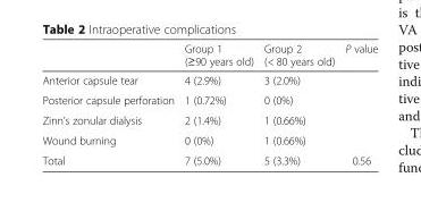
<table><thead><tr><td></td><td>Group 1 (≥90 years old)</td><td>Group 2 (&lt; 80 years old)</td><td>P value</td></tr></thead><tbody><tr><td>Anterior capsule tear</td><td>4 (2.9%)</td><td>3 (2.0%)</td><td></td></tr><tr><td>Posterior capsule perforation</td><td>1 (0.72%)</td><td>0 (0%)</td><td></td></tr><tr><td>Zinn’s zonular dialysis</td><td>2 (1.4%)</td><td>1 (0.66%)</td><td></td></tr><tr><td>Wound burning</td><td>0 (0%)</td><td>1 (0.66%)</td><td></td></tr><tr><td>Total</td><td>7 (5.0%)</td><td>5 (3.3%)</td><td>0.56</td></tr></tbody></table>